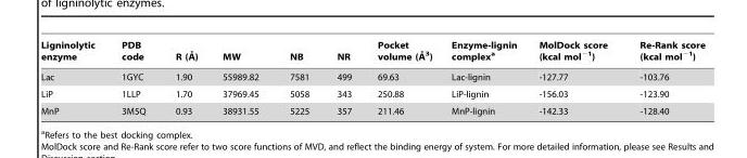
<table><thead><tr><td>Ligninolytic enzyme</td><td>PDB code</td><td>R (A˚ )</td><td>MW</td><td>NB</td><td>NR</td><td>Pocket volume (A˚ 3)</td><td>Enzyme-lignin complex<sup>a</sup></td><td>MolDock score (kcal mol<sup>−1</sup>)</td><td>Re-Rank score (kcal mol<sup>−1</sup>)</td></tr></thead><tbody><tr><td>Lac</td><td>1GYC</td><td>1.90</td><td>55989.82</td><td>7581</td><td>499</td><td>69.63</td><td>Lac-lignin</td><td>-127.77</td><td>-103.76</td></tr><tr><td>LiP</td><td>1LLP</td><td>1.70</td><td>37969.45</td><td>5058</td><td>343</td><td>250.88</td><td>LiP-lignin</td><td>-156.03</td><td>-123.90</td></tr><tr><td>MnP</td><td>3M5Q</td><td>0.93</td><td>38931.55</td><td>5225</td><td>357</td><td>211.46</td><td>MnP-lignin</td><td>-142.33</td><td>-128.40</td></tr></tbody></table>